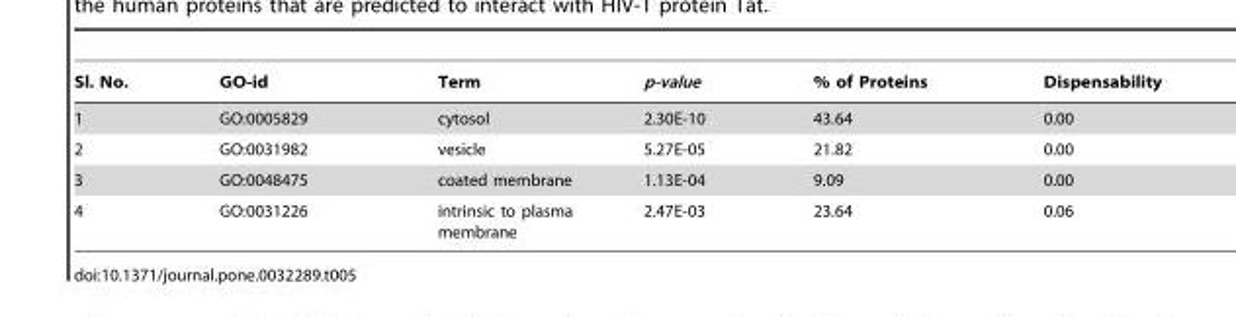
<table><thead><tr><td>Sl. No.</td><td>GO-id</td><td>Term</td><td>p-value</td><td>% of Proteins</td><td>Dispensability</td></tr></thead><tbody><tr><td>1</td><td>GO:0005829</td><td>cytosol</td><td>2.30E-10</td><td>43.64</td><td>0.00</td></tr><tr><td>2</td><td>GO:0031982</td><td>vesicle</td><td>5.27E-05</td><td>21.82</td><td>0.00</td></tr><tr><td>3</td><td>GO:0048475</td><td>coated membrane</td><td>1.13E-04</td><td>9.09</td><td>0.00</td></tr><tr><td>4</td><td>GO:0031226</td><td>intrinsic to plasma membrane</td><td>2.47E-03</td><td>23.64</td><td>0.06</td></tr></tbody></table>